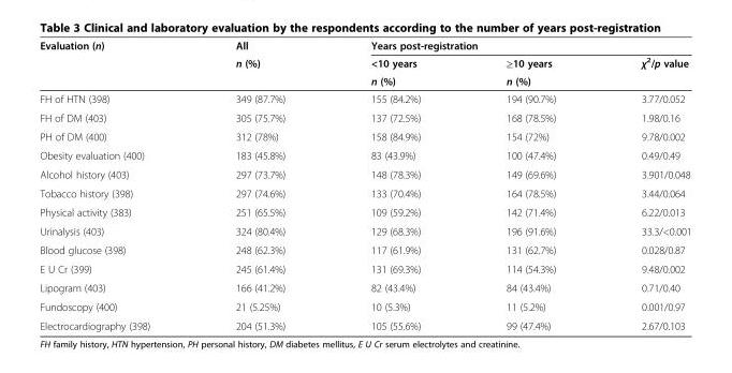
<table><thead><tr><td rowspan="3">Evaluation (n)</td><td rowspan="3">All n (%)</td><td colspan="2">Years post-registration</td><td rowspan="3">χ<sup>2</sup>/p value</td></tr><tr><td rowspan="2">&lt;10 years n (%)</td><td rowspan="2">≥10 years n (%)</td></tr><tr></tr></thead><tbody><tr><td>FH of HTN (398)</td><td>349 (87.7%)</td><td>155 (84.2%)</td><td>194 (90.7%)</td><td>3.77/0.052</td></tr><tr><td>FH of DM (403)</td><td>305 (75.7%)</td><td>137 (72.5%)</td><td>168 (78.5%)</td><td>1.98/0.16</td></tr><tr><td>PH of DM (400)</td><td>312 (78%)</td><td>158 (84.9%)</td><td>154 (72%)</td><td>9.78/0.002</td></tr><tr><td>Obesity evaluation (400)</td><td>183 (45.8%)</td><td>83 (43.9%)</td><td>100 (47.4%)</td><td>0.49/0.49</td></tr><tr><td>Alcohol history (403)</td><td>297 (73.7%)</td><td>148 (78.3%)</td><td>149 (69.6%)</td><td>3.901/0.048</td></tr><tr><td>Tobacco history (398)</td><td>297 (74.6%)</td><td>133 (70.4%)</td><td>164 (78.5%)</td><td>3.44/0.064</td></tr><tr><td>Physical activity (383)</td><td>251 (65.5%)</td><td>109 (59.2%)</td><td>142 (71.4%)</td><td>6.22/0.013</td></tr><tr><td>Urinalysis (403)</td><td>324 (80.4%)</td><td>129 (68.3%)</td><td>196 (91.6%)</td><td>33.3/&lt;0.001</td></tr><tr><td>Blood glucose (398)</td><td>248 (62.3%)</td><td>117 (61.9%)</td><td>131 (62.7%)</td><td>0.028/0.87</td></tr><tr><td>E U Cr (399)</td><td>245 (61.4%)</td><td>131 (69.3%)</td><td>114 (54.3%)</td><td>9.48/0.002</td></tr><tr><td>Lipogram (403)</td><td>166 (41.2%)</td><td>82 (43.4%)</td><td>84 (43.4%)</td><td>0.71/0.40</td></tr><tr><td>Fundoscopy (400)</td><td>21 (5.25%)</td><td>10 (5.3%)</td><td>11 (5.2%)</td><td>0.001/0.97</td></tr><tr><td>Electrocardiography (398)</td><td>204 (51.3%)</td><td>105 (55.6%)</td><td>99 (47.4%)</td><td>2.67/0.103</td></tr></tbody></table>